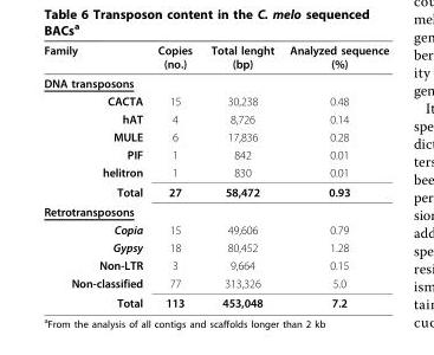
<table><thead><tr><td>Family</td><td>Copies (no.)</td><td>Total lenght (bp)</td><td>Analyzed sequence (%)</td></tr></thead><tbody><tr><td colspan="4">DNA transposons</td></tr><tr><td>CACTA</td><td>15</td><td>30,238</td><td>0.48</td></tr><tr><td>hAT</td><td>4</td><td>8,726</td><td>0.14</td></tr><tr><td>MULE</td><td>6</td><td>17,836</td><td>0.28</td></tr><tr><td>PIF</td><td>1</td><td>842</td><td>0.01</td></tr><tr><td>helitron</td><td>1</td><td>830</td><td>0.01</td></tr><tr><td>Total</td><td>27</td><td>58,472</td><td>0.93</td></tr><tr><td colspan="4">Retrotransposons</td></tr><tr><td>Copia</td><td>15</td><td>49,606</td><td>0.79</td></tr><tr><td>Gypsy</td><td>18</td><td>80,452</td><td>1.28</td></tr><tr><td>Non-LTR</td><td>3</td><td>9,664</td><td>0.15</td></tr><tr><td>Non-classified</td><td>77</td><td>313,326</td><td>5.0</td></tr><tr><td>Total</td><td>113</td><td>453,048</td><td>7.2</td></tr></tbody></table>